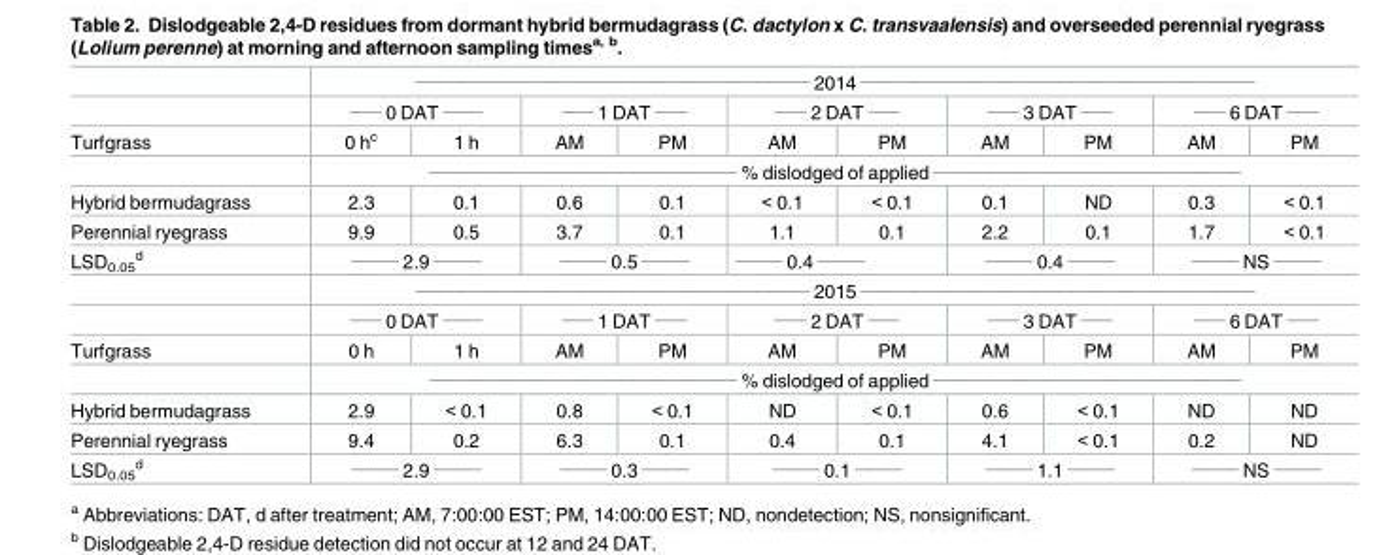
<table><thead><tr><td rowspan="3">Turfgrass</td><td colspan="10">__________________________________________________ 2014 __________________________________________________</td></tr><tr><td colspan="2"><sup>____</sup> 0 DAT <sup>_____</sup></td><td colspan="2"><sup>____</sup> 1 DAT <sup>____</sup></td><td colspan="2"><sup>____</sup> 2 DAT <sup>____</sup></td><td colspan="2"><sup>____</sup> 3 DAT <sup>____</sup></td><td colspan="2"><sup>____</sup> 6 DAT <sup>____</sup></td></tr><tr><td>0 h<sup>c</sup></td><td>1 h</td><td>AM</td><td>PM</td><td>AM</td><td>PM</td><td>AM</td><td>PM</td><td>AM</td><td>PM</td></tr></thead><tbody><tr><td></td><td colspan="10">_______________________________________ % dislodged of applied _______________________________________</td></tr><tr><td>Hybrid bermudagrass</td><td>2.3</td><td>0.1</td><td>0.6</td><td>0.1</td><td>&lt; 0.1</td><td>&lt; 0.1</td><td>0.1</td><td>ND</td><td>0.3</td><td>&lt; 0.1</td></tr><tr><td>Perennial ryegrass</td><td>9.9</td><td>0.5</td><td>3.7</td><td>0.1</td><td>1.1</td><td>0.1</td><td>2.2</td><td>0.1</td><td>1.7</td><td>&lt; 0.1</td></tr><tr><td rowspan="3">LSD<sub>0.05</sub> <sup>d</sup></td><td colspan="2"><sup>______</sup> 2.9 <sup>______</sup></td><td colspan="2"><sup>______</sup> 0.5 <sup>______</sup></td><td colspan="2"><sup>______</sup> 0.4 <sup>______</sup></td><td colspan="2"><sup>______</sup> 0.4 <sup>______</sup></td><td colspan="2"><sup>______</sup> NS <sup>______</sup></td></tr><tr><td colspan="10">__________________________________________________ 2015 __________________________________________________</td></tr><tr><td colspan="2"><sup>____</sup> 0 DAT <sup>_____</sup></td><td colspan="2"><sup>____</sup> 1 DAT <sup>____</sup></td><td colspan="2"><sup>____</sup> 2 DAT <sup>____</sup></td><td colspan="2"><sup>____</sup> 3 DAT <sup>____</sup></td><td colspan="2"><sup>____</sup> 6 DAT <sup>____</sup></td></tr><tr><td rowspan="2">Turfgrass</td><td>0 h</td><td>1 h</td><td>AM</td><td>PM</td><td>AM</td><td>PM</td><td>AM</td><td>PM</td><td>AM</td><td>PM</td></tr><tr><td colspan="10">_______________________________________ % dislodged of applied _______________________________________</td></tr><tr><td>Hybrid bermudagrass</td><td>2.9</td><td>&lt; 0.1</td><td>0.8</td><td>&lt; 0.1</td><td>ND</td><td>&lt; 0.1</td><td>0.6</td><td>&lt; 0.1</td><td>ND</td><td>ND</td></tr><tr><td>Perennial ryegrass</td><td>9.4</td><td>0.2</td><td>6.3</td><td>0.1</td><td>0.4</td><td>0.1</td><td>4.1</td><td>&lt; 0.1</td><td>0.2</td><td>ND</td></tr><tr><td>LSD<sub>0.05</sub> <sup>d</sup></td><td colspan="2"><sup>______</sup> 2.9 <sup>______</sup></td><td colspan="2"><sup>______</sup> 0.3 <sup>______</sup></td><td colspan="2"><sup>______</sup> 0.1 <sup>______</sup></td><td colspan="2"><sup>______</sup> 1.1 <sup>______</sup></td><td colspan="2"><sup>______</sup> NS <sup>______</sup></td></tr></tbody></table>